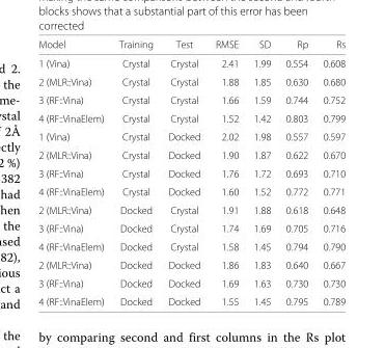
<table><thead><tr><td>Model</td><td>Training</td><td>Test</td><td>RMSE</td><td>SD</td><td>Rp</td><td>Rs</td></tr></thead><tbody><tr><td>1 (Vina)</td><td>Crystal</td><td>Crystal</td><td>2.41</td><td>1.99</td><td>0.554</td><td>0.608</td></tr><tr><td>2 (MLR::Vina)</td><td>Crystal</td><td>Crystal</td><td>1.88</td><td>1.85</td><td>0.630</td><td>0.680</td></tr><tr><td>3 (RF::Vina)</td><td>Crystal</td><td>Crystal</td><td>1.66</td><td>1.59</td><td>0.744</td><td>0.752</td></tr><tr><td>4 (RF::VinaElem)</td><td>Crystal</td><td>Crystal</td><td>1.52</td><td>1.42</td><td>0.803</td><td>0.799</td></tr><tr><td>1 (Vina)</td><td>Crystal</td><td>Docked</td><td>2.02</td><td>1.98</td><td>0.557</td><td>0.597</td></tr><tr><td>2 (MLR::Vina)</td><td>Crystal</td><td>Docked</td><td>1.90</td><td>1.87</td><td>0.622</td><td>0.670</td></tr><tr><td>3 (RF::Vina)</td><td>Crystal</td><td>Docked</td><td>1.76</td><td>1.72</td><td>0.693</td><td>0.710</td></tr><tr><td>4 (RF::VinaElem)</td><td>Crystal</td><td>Docked</td><td>1.60</td><td>1.52</td><td>0.772</td><td>0.771</td></tr><tr><td>2 (MLR::Vina)</td><td>Docked</td><td>Crystal</td><td>1.91</td><td>1.88</td><td>0.618</td><td>0.648</td></tr><tr><td>3 (RF::Vina)</td><td>Docked</td><td>Crystal</td><td>1.74</td><td>1.69</td><td>0.705</td><td>0.716</td></tr><tr><td>4 (RF::VinaElem)</td><td>Docked</td><td>Crystal</td><td>1.58</td><td>1.45</td><td>0.794</td><td>0.790</td></tr><tr><td>2 (MLR::Vina)</td><td>Docked</td><td>Docked</td><td>1.86</td><td>1.83</td><td>0.640</td><td>0.667</td></tr><tr><td>3 (RF::Vina)</td><td>Docked</td><td>Docked</td><td>1.69</td><td>1.63</td><td>0.730</td><td>0.730</td></tr><tr><td>4 (RF::VinaElem)</td><td>Docked</td><td>Docked</td><td>1.55</td><td>1.45</td><td>0.795</td><td>0.789</td></tr></tbody></table>